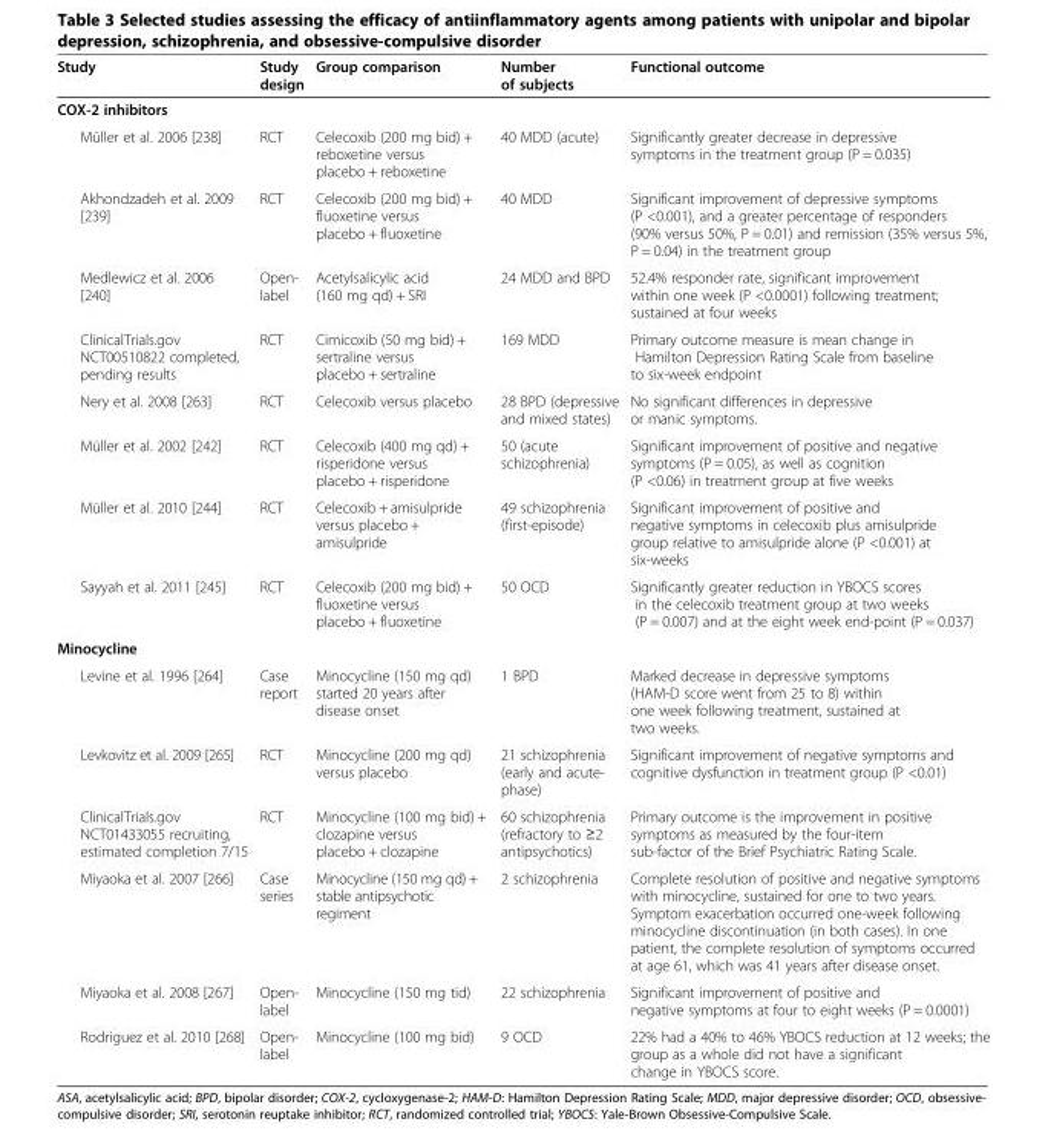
<table><thead><tr><td>Study</td><td>Study design</td><td>Group comparison</td><td>Number of subjects</td><td>Functional outcome</td></tr></thead><tbody><tr><td colspan="5">COX-2 inhibitors</td></tr><tr><td>Müller et al. 2006 [238]</td><td>RCT</td><td>Celecoxib (200 mg bid) + reboxetine versus placebo + reboxetine</td><td>40 MDD (acute)</td><td>Significantly greater decrease in depressive symptoms in the treatment group (P = 0.035)</td></tr><tr><td>Akhondzadeh et al. 2009 [239]</td><td>RCT</td><td>Celecoxib (200 mg bid) + fluoxetine versus placebo + fluoxetine</td><td>40 MDD</td><td>Significant improvement of depressive symptoms (P &lt;0.001), and a greater percentage of responders (90% versus 50%, P = 0.01) and remission (35% versus 5%, P = 0.04) in the treatment group</td></tr><tr><td>Medlewicz et al. 2006 [240]</td><td>Open- label</td><td>Acetylsalicylic acid (160 mg qd) + SRI</td><td>24 MDD and BPD</td><td>52.4% responder rate, significant improvement within one week (P &lt;0.0001) following treatment; sustained at four weeks</td></tr><tr><td>ClinicalTrials.gov NCT00510822 completed, pending results</td><td>RCT</td><td>Cimicoxib (50 mg bid) + sertraline versus placebo + sertraline</td><td>169 MDD</td><td>Primary outcome measure is mean change in Hamilton Depression Rating Scale from baseline to six-week endpoint</td></tr><tr><td>Nery et al. 2008 [263]</td><td>RCT</td><td>Celecoxib versus placebo</td><td>28 BPD (depressive and mixed states)</td><td>No significant differences in depressive or manic symptoms.</td></tr><tr><td>Müller et al. 2002 [242]</td><td>RCT</td><td>Celecoxib (400 mg qd) + risperidone versus placebo + risperidone</td><td>50 (acute schizophrenia)</td><td>Significant improvement of positive and negative symptoms (P = 0.05), as well as cognition (P &lt;0.06) in treatment group at five weeks</td></tr><tr><td>Müller et al. 2010 [244]</td><td>RCT</td><td>Celecoxib + amisulpride versus placebo + amisulpride</td><td>49 schizophrenia (first-episode)</td><td>Significant improvement of positive and negative symptoms in celecoxib plus amisulpride group relative to amisulpride alone (P &lt;0.001) at six-weeks</td></tr><tr><td>Sayyah et al. 2011 [245]</td><td>RCT</td><td>Celecoxib (200 mg bid) + fluoxetine versus placebo + fluoxetine</td><td>50 OCD</td><td>Significantly greater reduction in YBOCS scores in the celecoxib treatment group at two weeks (P = 0.007) and at the eight week end-point (P = 0.037)</td></tr><tr><td colspan="5">Minocycline</td></tr><tr><td>Levine et al. 1996 [264]</td><td>Case report</td><td>Minocycline (150 mg qd) started 20 years after disease onset</td><td>1 BPD</td><td>Marked decrease in depressive symptoms (HAM-D score went from 25 to 8) within one week following treatment, sustained at two weeks.</td></tr><tr><td>Levkovitz et al. 2009 [265]</td><td>RCT</td><td>Minocycline (200 mg qd) versus placebo</td><td>21 schizophrenia (early and acute- phase)</td><td>Significant improvement of negative symptoms and cognitive dysfunction in treatment group (P &lt;0.01)</td></tr><tr><td>ClinicalTrials.gov NCT01433055 recruiting, estimated completion 7/15</td><td>RCT</td><td>Minocycline (100 mg bid) + clozapine versus placebo + clozapine</td><td>60 schizophrenia (refractory to ≥2 antipsychotics)</td><td>Primary outcome is the improvement in positive symptoms as measured by the four-item sub-factor of the Brief Psychiatric Rating Scale.</td></tr><tr><td>Miyaoka et al. 2007 [266]</td><td>Case series</td><td>Minocycline (150 mg qd) + stable antipsychotic regiment</td><td>2 schizophrenia</td><td>Complete resolution of positive and negative symptoms with minocycline, sustained for one to two years. Symptom exacerbation occurred one-week following minocycline discontinuation (in both cases). In one patient, the complete resolution of symptoms occurred at age 61, which was 41 years after disease onset.</td></tr><tr><td>Miyaoka et al. 2008 [267]</td><td>Open- label</td><td>Minocycline (150 mg tid)</td><td>22 schizophrenia</td><td>Significant improvement of positive and negative symptoms at four to eight weeks (P = 0.0001)</td></tr><tr><td>Rodriguez et al. 2010 [268]</td><td>Open- label</td><td>Minocycline (100 mg bid)</td><td>9 OCD</td><td>22% had a 40% to 46% YBOCS reduction at 12 weeks; the group as a whole did not have a significant change in YBOCS score.</td></tr></tbody></table>